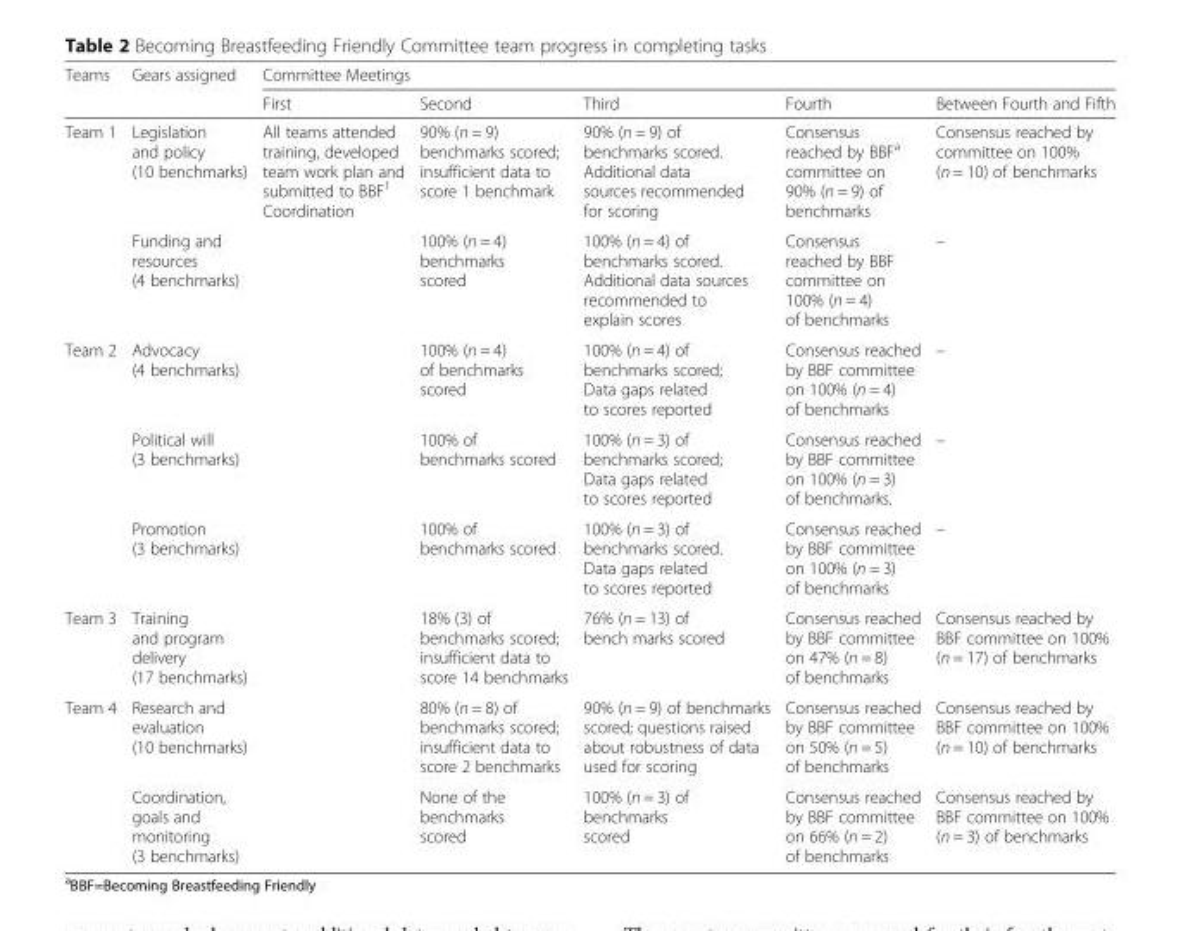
<table><thead><tr><td rowspan="2">Teams</td><td rowspan="2">Gears assigned</td><td colspan="5">Committee Meetings</td></tr><tr><td>First</td><td>Second</td><td>Third</td><td>Fourth</td><td>Between Fourth and Fifth</td></tr></thead><tbody><tr><td rowspan="2">Team 1</td><td>Legislation and policy (10 benchmarks)</td><td rowspan="8">All teams attended training, developed team work plan and submitted to BBF<sup>1</sup> Coordination</td><td>90% (n = 9) benchmarks scored; insufficient data to score 1 benchmark</td><td>90% (n = 9) of benchmarks scored. Additional data sources recommended for scoring</td><td>Consensus reached by BBF<sup>a</sup> committee on 90% (n = 9) of benchmarks</td><td>Consensus reached by committee on 100% (n = 10) of benchmarks</td></tr><tr><td>Funding and resources (4 benchmarks)</td><td>100% (n = 4) benchmarks scored</td><td>100% (n = 4) of benchmarks scored. Additional data sources recommended to explain scores</td><td>Consensus reached by BBF committee on 100% (n = 4) of benchmarks</td><td>–</td></tr><tr><td rowspan="3">Team 2</td><td>Advocacy (4 benchmarks)</td><td>100% (n = 4) of benchmarks scored</td><td>100% (n = 4) of benchmarks scored; Data gaps related to scores reported</td><td>Consensus reached by BBF committee on 100% (n = 4) of benchmarks</td><td>–</td></tr><tr><td>Political will (3 benchmarks)</td><td>100% of benchmarks scored</td><td>100% (n = 3) of benchmarks scored; Data gaps related to scores reported</td><td>Consensus reached by BBF committee on 100% (n = 3) of benchmarks.</td><td>–</td></tr><tr><td>Promotion (3 benchmarks)</td><td>100% of benchmarks scored</td><td>100% (n = 3) of benchmarks scored. Data gaps related to scores reported</td><td>Consensus reached by BBF committee on 100% (n = 3) of benchmarks</td><td>–</td></tr><tr><td>Team 3</td><td>Training and program delivery (17 benchmarks)</td><td>18% (3) of benchmarks scored; insufficient data to score 14 benchmarks</td><td>76% (n = 13) of bench marks scored</td><td>Consensus reached by BBF committee on 47% (n = 8) of benchmarks</td><td>Consensus reached by BBF committee on 100% (n = 17) of benchmarks</td></tr><tr><td rowspan="2">Team 4</td><td>Research and evaluation (10 benchmarks)</td><td>80% (n = 8) of benchmarks scored; insufficient data to score 2 benchmarks</td><td>90% (n = 9) of benchmarks scored; questions raised about robustness of data used for scoring</td><td>Consensus reached by BBF committee on 50% (n = 5) of benchmarks</td><td>Consensus reached by BBF committee on 100% (n = 10) of benchmarks</td></tr><tr><td>Coordination, goals and monitoring (3 benchmarks)</td><td>None of the benchmarks scored</td><td>100% (n = 3) of benchmarks scored</td><td>Consensus reached by BBF committee on 66% (n = 2) of benchmarks</td><td>Consensus reached by BBF committee on 100% (n = 3) of benchmarks</td></tr></tbody></table>